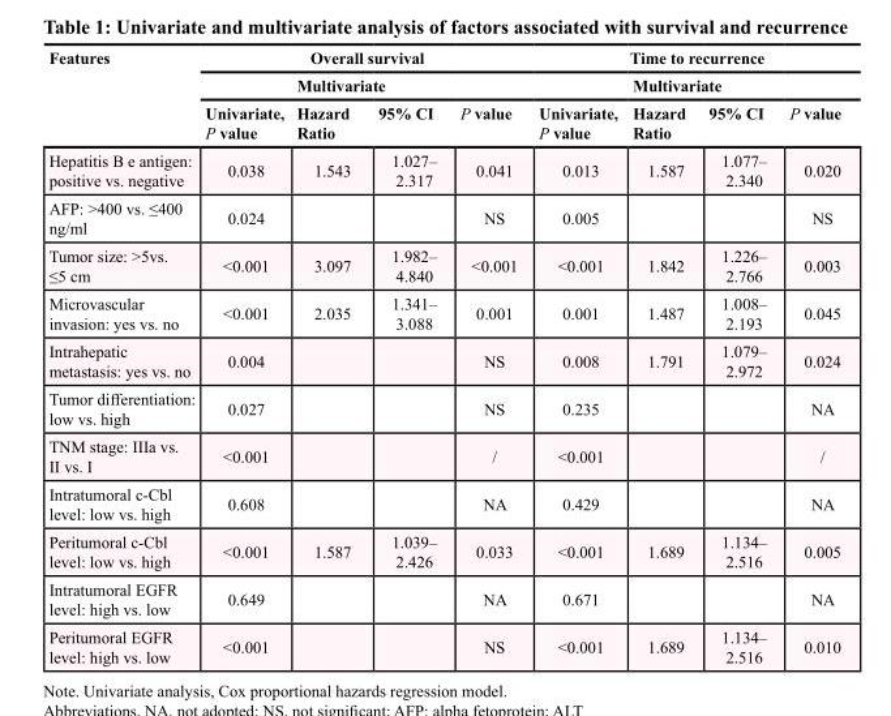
<table><thead><tr><td rowspan="3">Features</td><td rowspan="2" colspan="4">Overall survival Multivariate</td><td rowspan="2" colspan="4">Time to recurrence Multivariate</td></tr><tr></tr><tr><td>Univariate, P value</td><td>Hazard Ratio</td><td>95% CI</td><td>P value</td><td>Univariate, P value</td><td>Hazard Ratio</td><td>95% CI</td><td>P value</td></tr></thead><tbody><tr><td>Hepatitis B e antigen: positive vs. negative</td><td>0.038</td><td>1.543</td><td>1.027– 2.317</td><td>0.041</td><td>0.013</td><td>1.587</td><td>1.077– 2.340</td><td>0.020</td></tr><tr><td>AFP: &gt;400 vs. ≤400 ng/ml</td><td>0.024</td><td></td><td></td><td>NS</td><td>0.005</td><td></td><td></td><td>NS</td></tr><tr><td>Tumor size: &gt;5vs. ≤5 cm</td><td>&lt;0.001</td><td>3.097</td><td>1.982– 4.840</td><td>&lt;0.001</td><td>&lt;0.001</td><td>1.842</td><td>1.226– 2.766</td><td>0.003</td></tr><tr><td>Microvascular invasion: yes vs. no</td><td>&lt;0.001</td><td>2.035</td><td>1.341– 3.088</td><td>0.001</td><td>0.001</td><td>1.487</td><td>1.008– 2.193</td><td>0.045</td></tr><tr><td>Intrahepatic metastasis: yes vs. no</td><td>0.004</td><td></td><td></td><td>NS</td><td>0.008</td><td>1.791</td><td>1.079– 2.972</td><td>0.024</td></tr><tr><td>Tumor differentiation: low vs. high</td><td>0.027</td><td></td><td></td><td>NS</td><td>0.235</td><td></td><td></td><td>NA</td></tr><tr><td>TNM stage: IIIa vs. II vs. I</td><td>&lt;0.001</td><td></td><td></td><td>/</td><td>&lt;0.001</td><td></td><td></td><td>/</td></tr><tr><td>Intratumoral c-Cbl level: low vs. high</td><td>0.608</td><td></td><td></td><td>NA</td><td>0.429</td><td></td><td></td><td>NA</td></tr><tr><td>Peritumoral c-Cbl level: low vs. high</td><td>&lt;0.001</td><td>1.587</td><td>1.039– 2.426</td><td>0.033</td><td>&lt;0.001</td><td>1.689</td><td>1.134– 2.516</td><td>0.005</td></tr><tr><td>Intratumoral EGFR level: high vs. low</td><td>0.649</td><td></td><td></td><td>NA</td><td>0.671</td><td></td><td></td><td>NA</td></tr><tr><td>Peritumoral EGFR level: high vs. low</td><td>&lt;0.001</td><td></td><td></td><td>NS</td><td>&lt;0.001</td><td>1.689</td><td>1.134– 2.516</td><td>0.010</td></tr></tbody></table>